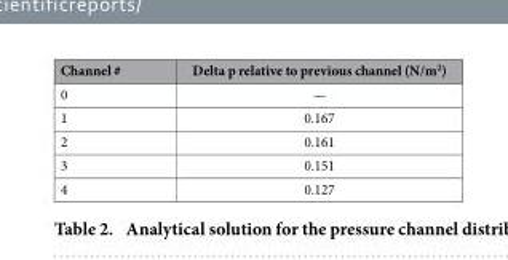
<table><thead><tr><td>Channel #</td><td>Delta p relative to previous channel (N/m<sup>2</sup>)</td></tr></thead><tbody><tr><td>0</td><td>—</td></tr><tr><td>1</td><td>0.167</td></tr><tr><td>2</td><td>0.161</td></tr><tr><td>3</td><td>0.151</td></tr><tr><td>4</td><td>0.127</td></tr></tbody></table>